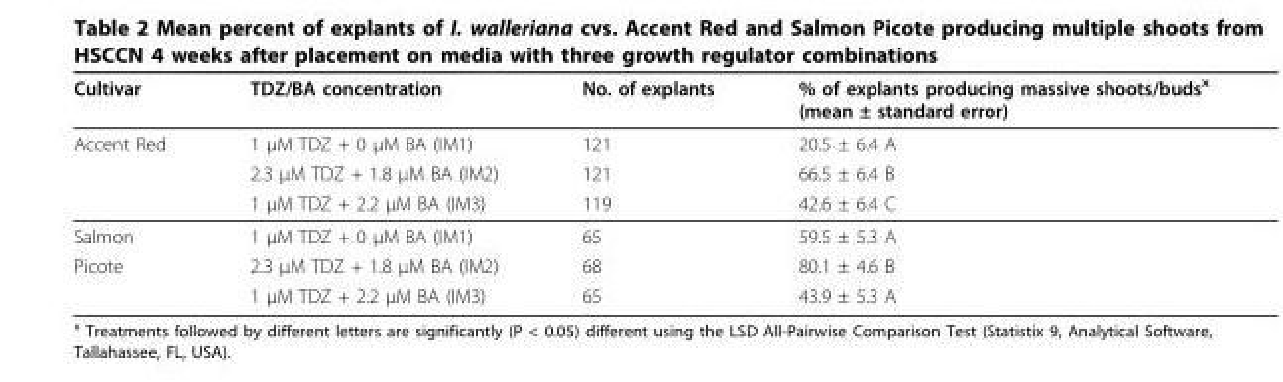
<table><thead><tr><td>Cultivar</td><td>TDZ/BA concentration</td><td>No. of explants</td><td>% of explants producing massive shoots/buds<sup>x</sup> (mean ± standard error)</td></tr></thead><tbody><tr><td rowspan="3">Accent Red</td><td>1 μM TDZ + 0 μM BA (IM1)</td><td>121</td><td>20.5 ± 6.4 A</td></tr><tr><td>2.3 μM TDZ + 1.8 μM BA (IM2)</td><td>121</td><td>66.5 ± 6.4 B</td></tr><tr><td>1 μM TDZ + 2.2 μM BA (IM3)</td><td>119</td><td>42.6 ± 6.4 C</td></tr><tr><td>Salmon</td><td>1 μM TDZ + 0 μM BA (IM1)</td><td>65</td><td>59.5 ± 5.3 A</td></tr><tr><td rowspan="2">Picote</td><td>2.3 μM TDZ + 1.8 μM BA (IM2)</td><td>68</td><td>80.1 ± 4.6 B</td></tr><tr><td>1 μM TDZ + 2.2 μM BA (IM3)</td><td>65</td><td>43.9 ± 5.3 A</td></tr></tbody></table>